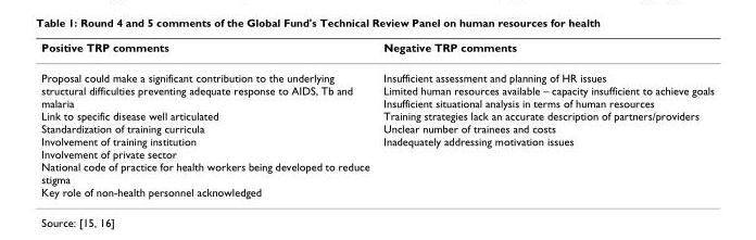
<table><thead><tr><td>Positive TRP comments</td><td>Negative TRP comments</td></tr></thead><tbody><tr><td>Proposal could make a significant contribution to the underlying structural difficulties preventing adequate response to AIDS, Tb and malaria Link to specific disease well articulated Standardization of training curricula Involvement of training institution Involvement of private sector National code of practice for health workers being developed to reduce stigma Key role of non-health personnel acknowledged</td><td>Insufficient assessment and planning of HR issues Limited human resources available – capacity insufficient to achieve goals Insufficient situational analysis in terms of human resources Training strategies lack an accurate description of partners/providers Unclear number of trainees and costs Inadequately addressing motivation issues</td></tr></tbody></table>